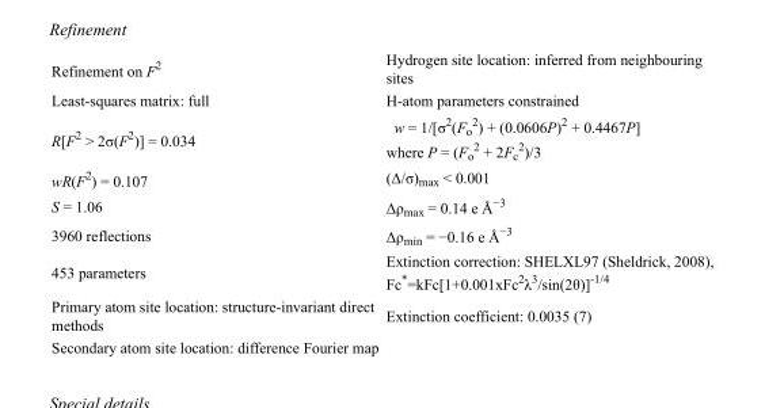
<table><tbody><tr><td>Refinement on F<sup>2</sup></td><td>Hydrogen site location: inferred from neighbouring sites</td></tr><tr><td>Least-squares matrix: full</td><td>H-atom parameters constrained</td></tr><tr><td>R[F<sup>2</sup> &gt; 2σ(F<sup>2</sup>)] = 0.034</td><td>w = 1/[σ<sup>2</sup>(F<sub>o</sub> <sup>2</sup>) + (0.0606P)<sup>2</sup> + 0.4467P] where P = (F<sub>o</sub> <sup>2</sup> + 2F<sub>c</sub> <sup>2</sup>)/3</td></tr><tr><td>wR(F<sup>2</sup>) = 0.107</td><td>(Δ/σ)<sub>max</sub> &lt; 0.001</td></tr><tr><td>S = 1.06</td><td>Δρ<sub>max</sub> = 0.14 e Å<sup>−3</sup></td></tr><tr><td>3960 reflections</td><td>Δρ<sub>min</sub> = −0.16 e Å<sup>−3</sup></td></tr><tr><td>453 parameters</td><td>Extinction correction: SHELXL97 (Sheldrick, 2008), Fc*=kFc[1+0.001xFc<sup>2</sup>λ<sup>3</sup>/sin(2θ)]<sup>-1/4</sup></td></tr><tr><td>Primary atom site location: structure-invariant direct methods</td><td>Extinction coefficient: 0.0035 (7)</td></tr><tr><td>Secondary atom site location: difference Fourier map</td><td></td></tr></tbody></table>